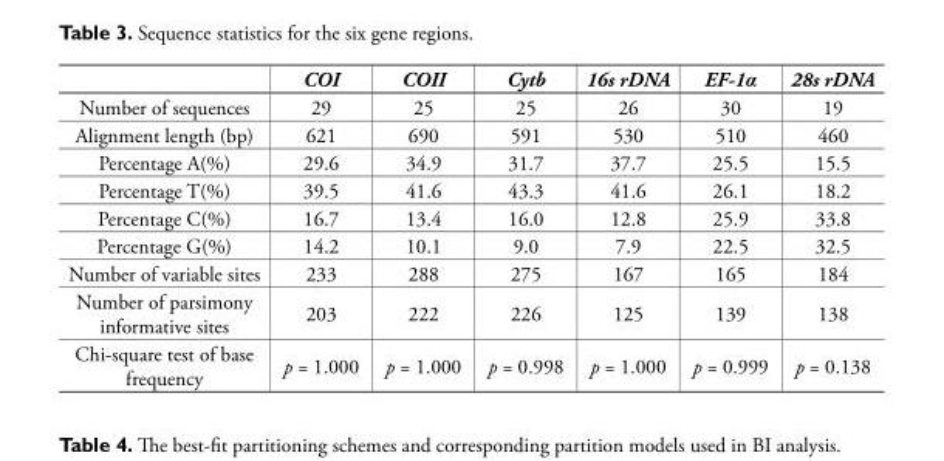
<table><thead><tr><td></td><td>COI</td><td>COII</td><td>Cytb</td><td>16s rDNA</td><td>EF-1α</td><td>28s rDNA</td></tr></thead><tbody><tr><td>Number of sequences</td><td>29</td><td>25</td><td>25</td><td>26</td><td>30</td><td>19</td></tr><tr><td>Alignment length (bp)</td><td>621</td><td>690</td><td>591</td><td>530</td><td>510</td><td>460</td></tr><tr><td>Percentage A(%)</td><td>29.6</td><td>34.9</td><td>31.7</td><td>37.7</td><td>25.5</td><td>15.5</td></tr><tr><td>Percentage T(%)</td><td>39.5</td><td>41.6</td><td>43.3</td><td>41.6</td><td>26.1</td><td>18.2</td></tr><tr><td>Percentage C(%)</td><td>16.7</td><td>13.4</td><td>16.0</td><td>12.8</td><td>25.9</td><td>33.8</td></tr><tr><td>Percentage G(%)</td><td>14.2</td><td>10.1</td><td>9.0</td><td>7.9</td><td>22.5</td><td>32.5</td></tr><tr><td>Number of variable sites</td><td>233</td><td>288</td><td>275</td><td>167</td><td>165</td><td>184</td></tr><tr><td>Number of parsimony informative sites</td><td>203</td><td>222</td><td>226</td><td>125</td><td>139</td><td>138</td></tr><tr><td>Chi-square test of base frequency</td><td>p = 1.000</td><td>p = 1.000</td><td>p = 0.998</td><td>p = 1.000</td><td>p = 0.999</td><td>p = 0.138</td></tr></tbody></table>